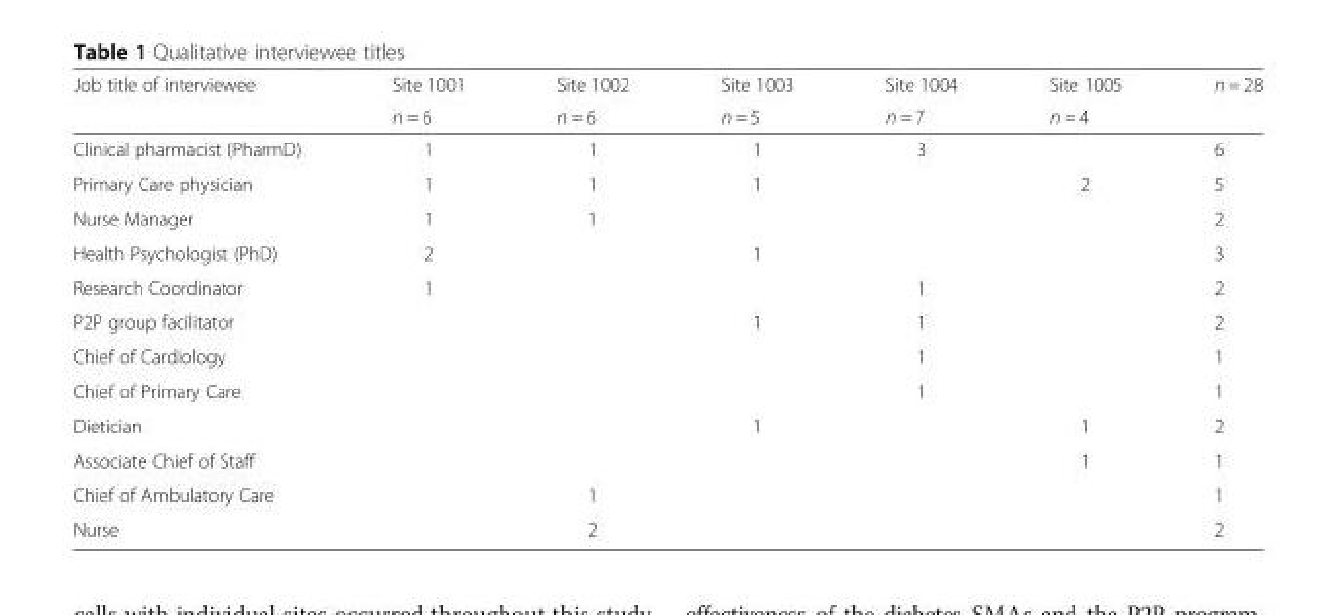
<table><thead><tr><td rowspan="2">Job title of interviewee</td><td rowspan="2">Site 1001 n = 6</td><td rowspan="2">Site 1002 n = 6</td><td rowspan="2">Site 1003 n = 5</td><td rowspan="2">Site 1004 n = 7</td><td rowspan="2">Site 1005 n = 4</td><td rowspan="2">n = 28</td></tr><tr></tr></thead><tbody><tr><td>Clinical pharmacist (PharmD)</td><td>1</td><td>1</td><td>1</td><td>3</td><td></td><td>6</td></tr><tr><td>Primary Care physician</td><td>1</td><td>1</td><td>1</td><td></td><td>2</td><td>5</td></tr><tr><td>Nurse Manager</td><td>1</td><td>1</td><td></td><td></td><td></td><td>2</td></tr><tr><td>Health Psychologist (PhD)</td><td>2</td><td></td><td>1</td><td></td><td></td><td>3</td></tr><tr><td>Research Coordinator</td><td>1</td><td></td><td></td><td>1</td><td></td><td>2</td></tr><tr><td>P2P group facilitator</td><td></td><td></td><td>1</td><td>1</td><td></td><td>2</td></tr><tr><td>Chief of Cardiology</td><td></td><td></td><td></td><td>1</td><td></td><td>1</td></tr><tr><td>Chief of Primary Care</td><td></td><td></td><td></td><td>1</td><td></td><td>1</td></tr><tr><td>Dietician</td><td></td><td></td><td>1</td><td></td><td>1</td><td>2</td></tr><tr><td>Associate Chief of Staff</td><td></td><td></td><td></td><td></td><td>1</td><td>1</td></tr><tr><td>Chief of Ambulatory Care</td><td></td><td>1</td><td></td><td></td><td></td><td>1</td></tr><tr><td>Nurse</td><td></td><td>2</td><td></td><td></td><td></td><td>2</td></tr></tbody></table>